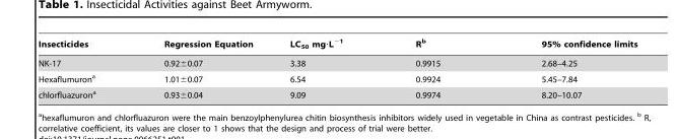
<table><thead><tr><td>Insecticides</td><td>Regression Equation</td><td>LC<sub>50</sub> mg·L<sup>−1</sup></td><td>R<sup>b</sup></td><td>95% confidence limits</td></tr></thead><tbody><tr><td>NK-17</td><td>0.92±0.07</td><td>3.38</td><td>0.9915</td><td>2.68–4.25</td></tr><tr><td>Hexaflumuron<sup>a</sup></td><td>1.01±0.07</td><td>6.54</td><td>0.9924</td><td>5.45–7.84</td></tr><tr><td>chlorfluazuron<sup>a</sup></td><td>0.93±0.04</td><td>9.09</td><td>0.9974</td><td>8.20–10.07</td></tr></tbody></table>